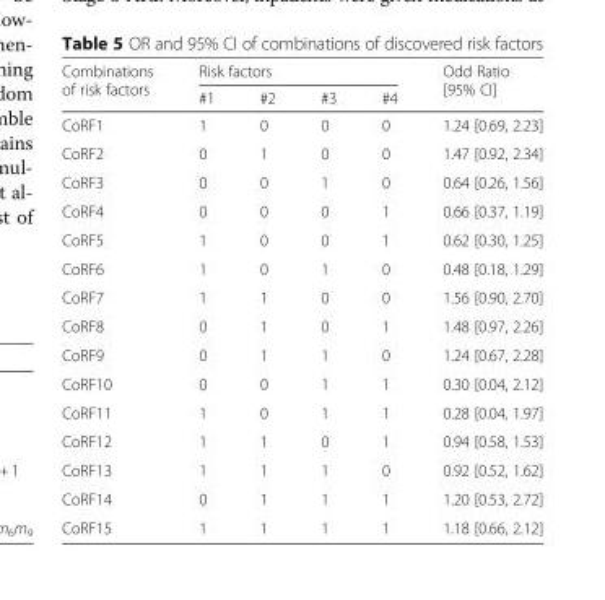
<table><thead><tr><td rowspan="2">Combinations of risk factors</td><td colspan="4">Risk factors</td><td rowspan="2">Odd Ratio [95% CI]</td></tr><tr><td>#1</td><td>#2</td><td>#3</td><td>#4</td></tr></thead><tbody><tr><td>CoRF1</td><td>1</td><td>0</td><td>0</td><td>0</td><td>1.24 [0.69, 2.23]</td></tr><tr><td>CoRF2</td><td>0</td><td>1</td><td>0</td><td>0</td><td>1.47 [0.92, 2.34]</td></tr><tr><td>CoRF3</td><td>0</td><td>0</td><td>1</td><td>0</td><td>0.64 [0.26, 1.56]</td></tr><tr><td>CoRF4</td><td>0</td><td>0</td><td>0</td><td>1</td><td>0.66 [0.37, 1.19]</td></tr><tr><td>CoRF5</td><td>1</td><td>0</td><td>0</td><td>1</td><td>0.62 [0.30, 1.25]</td></tr><tr><td>CoRF6</td><td>1</td><td>0</td><td>1</td><td>0</td><td>0.48 [0.18, 1.29]</td></tr><tr><td>CoRF7</td><td>1</td><td>1</td><td>0</td><td>0</td><td>1.56 [0.90, 2.70]</td></tr><tr><td>CoRF8</td><td>0</td><td>1</td><td>0</td><td>1</td><td>1.48 [0.97, 2.26]</td></tr><tr><td>CoRF9</td><td>0</td><td>1</td><td>1</td><td>0</td><td>1.24 [0.67, 2.28]</td></tr><tr><td>CoRF10</td><td>0</td><td>0</td><td>1</td><td>1</td><td>0.30 [0.04, 2.12]</td></tr><tr><td>CoRF11</td><td>1</td><td>0</td><td>1</td><td>1</td><td>0.28 [0.04, 1.97]</td></tr><tr><td>CoRF12</td><td>1</td><td>1</td><td>0</td><td>1</td><td>0.94 [0.58, 1.53]</td></tr><tr><td>CoRF13</td><td>1</td><td>1</td><td>1</td><td>0</td><td>0.92 [0.52, 1.62]</td></tr><tr><td>CoRF14</td><td>0</td><td>1</td><td>1</td><td>1</td><td>1.20 [0.53, 2.72]</td></tr><tr><td>CoRF15</td><td>1</td><td>1</td><td>1</td><td>1</td><td>1.18 [0.66, 2.12]</td></tr></tbody></table>